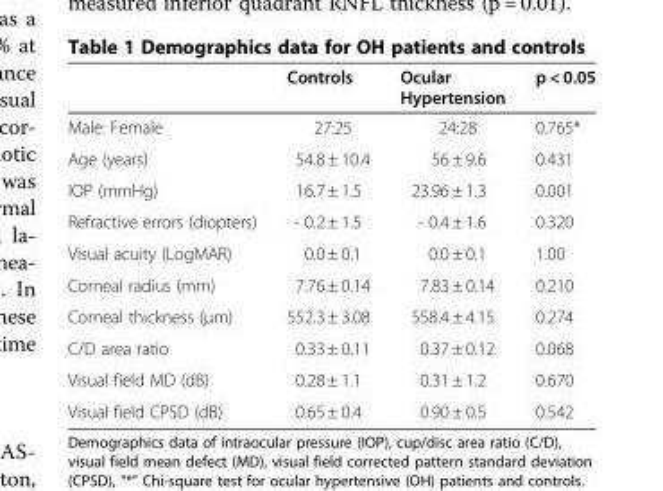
<table><thead><tr><td></td><td>Controls</td><td>Ocular Hypertension</td><td>p &lt; 0.05</td></tr></thead><tbody><tr><td>Male: Female</td><td>27:25</td><td>24:28</td><td>0.765*</td></tr><tr><td>Age (years)</td><td>54.8 ± 10.4</td><td>56 ± 9.6</td><td>0.431</td></tr><tr><td>IOP (mmHg)</td><td>16.7 ± 1.5</td><td>23.96 ± 1.3</td><td>0.001</td></tr><tr><td>Refractive errors (diopters)</td><td>- 0.2 ± 1.5</td><td>- 0.4 ± 1.6</td><td>0.320</td></tr><tr><td>Visual acuity (LogMAR)</td><td>0.0 ± 0.1</td><td>0.0 ± 0.1</td><td>1.00</td></tr><tr><td>Corneal radius (mm)</td><td>7.76 ± 0.14</td><td>7.83 ± 0.14</td><td>0.210</td></tr><tr><td>Corneal thickness (μm)</td><td>552.3 ± 3.08</td><td>558.4 ± 4.15</td><td>0.274</td></tr><tr><td>C/D area ratio</td><td>0.33 ± 0.11</td><td>0.37 ± 0.12</td><td>0.068</td></tr><tr><td>Visual field MD (dB)</td><td>0.28 ± 1.1</td><td>0.31 ± 1.2</td><td>0.670</td></tr><tr><td>Visual field CPSD (dB)</td><td>0.65 ± 0.4</td><td>0.90 ± 0.5</td><td>0.542</td></tr></tbody></table>